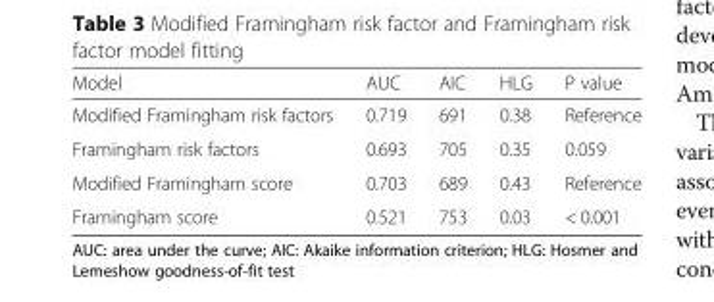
<table><thead><tr><td>Model</td><td>AUC</td><td>AIC</td><td>HLG</td><td>P value</td></tr></thead><tbody><tr><td>Modified Framingham risk factors</td><td>0.719</td><td>691</td><td>0.38</td><td>Reference</td></tr><tr><td>Framingham risk factors</td><td>0.693</td><td>705</td><td>0.35</td><td>0.059</td></tr><tr><td>Modified Framingham score</td><td>0.703</td><td>689</td><td>0.43</td><td>Reference</td></tr><tr><td>Framingham score</td><td>0.521</td><td>753</td><td>0.03</td><td>&lt; 0.001</td></tr></tbody></table>